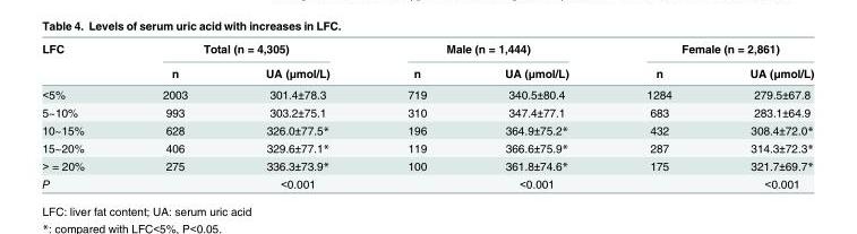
<table><thead><tr><td rowspan="2">LFC</td><td colspan="2">Total (n = 4,305)</td><td colspan="2">Male (n = 1,444)</td><td colspan="2">Female (n = 2,861)</td></tr><tr><td>n</td><td>UA (μmol/L)</td><td>n</td><td>UA (μmol/L)</td><td>n</td><td>UA (μmol/L)</td></tr></thead><tbody><tr><td>&lt;5%</td><td>2003</td><td>301.4±78.3</td><td>719</td><td>340.5±80.4</td><td>1284</td><td>279.5±67.8</td></tr><tr><td>5~10%</td><td>993</td><td>303.2±75.1</td><td>310</td><td>347.4±77.1</td><td>683</td><td>283.1±64.9</td></tr><tr><td>10~15%</td><td>628</td><td>326.0±77.5*</td><td>196</td><td>364.9±75.2*</td><td>432</td><td>308.4±72.0*</td></tr><tr><td>15~20%</td><td>406</td><td>329.6±77.1*</td><td>119</td><td>366.6±75.9*</td><td>287</td><td>314.3±72.3*</td></tr><tr><td>&gt; = 20%</td><td>275</td><td>336.3±73.9*</td><td>100</td><td>361.8±74.6*</td><td>175</td><td>321.7±69.7*</td></tr><tr><td>P</td><td></td><td>&lt;0.001</td><td></td><td>&lt;0.001</td><td></td><td>&lt;0.001</td></tr></tbody></table>